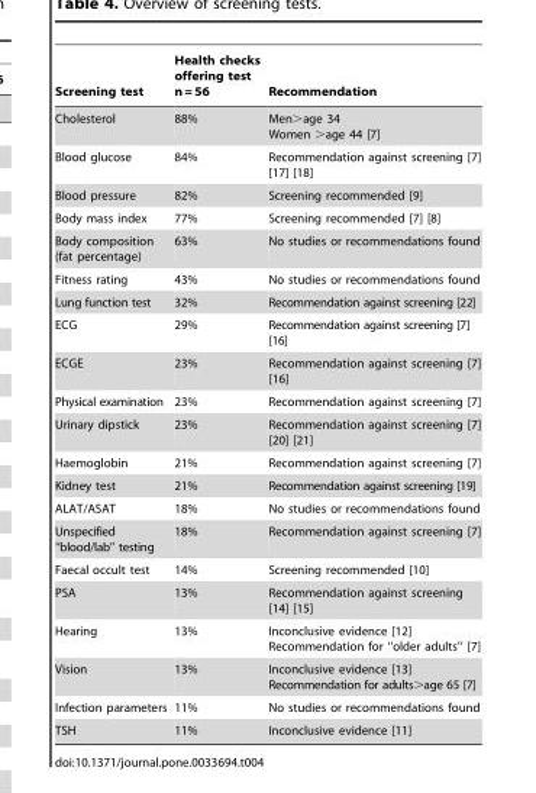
<table><thead><tr><td>Screening test</td><td>Health checks offering test n = 56</td><td>Recommendation</td></tr></thead><tbody><tr><td>Cholesterol</td><td>88%</td><td>Men&gt;age 34 Women &gt;age 44 [7]</td></tr><tr><td>Blood glucose</td><td>84%</td><td>Recommendation against screening [7] [17] [18]</td></tr><tr><td>Blood pressure</td><td>82%</td><td>Screening recommended [9]</td></tr><tr><td>Body mass index</td><td>77%</td><td>Screening recommended [7] [8]</td></tr><tr><td>Body composition (fat percentage)</td><td>63%</td><td>No studies or recommendations found</td></tr><tr><td>Fitness rating</td><td>43%</td><td>No studies or recommendations found</td></tr><tr><td>Lung function test</td><td>32%</td><td>Recommendation against screening [22]</td></tr><tr><td>ECG</td><td>29%</td><td>Recommendation against screening [7] [16]</td></tr><tr><td>ECGE</td><td>23%</td><td>Recommendation against screening [7] [16]</td></tr><tr><td>Physical examination</td><td>23%</td><td>Recommendation against screening [7]</td></tr><tr><td>Urinary dipstick</td><td>23%</td><td>Recommendation against screening [7] [20] [21]</td></tr><tr><td>Haemoglobin</td><td>21%</td><td>Recommendation against screening [7]</td></tr><tr><td>Kidney test</td><td>21%</td><td>Recommendation against screening [19]</td></tr><tr><td>ALAT/ASAT</td><td>18%</td><td>No studies or recommendations found</td></tr><tr><td>Unspecified ‘‘blood/lab’’ testing</td><td>18%</td><td>Recommendation against screening [7]</td></tr><tr><td>Faecal occult test</td><td>14%</td><td>Screening recommended [10]</td></tr><tr><td>PSA</td><td>13%</td><td>Recommendation against screening [14] [15]</td></tr><tr><td>Hearing</td><td>13%</td><td>Inconclusive evidence [12] Recommendation for ‘‘older adults’’ [7]</td></tr><tr><td>Vision</td><td>13%</td><td>Inconclusive evidence [13] Recommendation for adults&gt;age 65 [7]</td></tr><tr><td>Infection parameters</td><td>11%</td><td>No studies or recommendations found</td></tr><tr><td>TSH</td><td>11%</td><td>Inconclusive evidence [11]</td></tr></tbody></table>